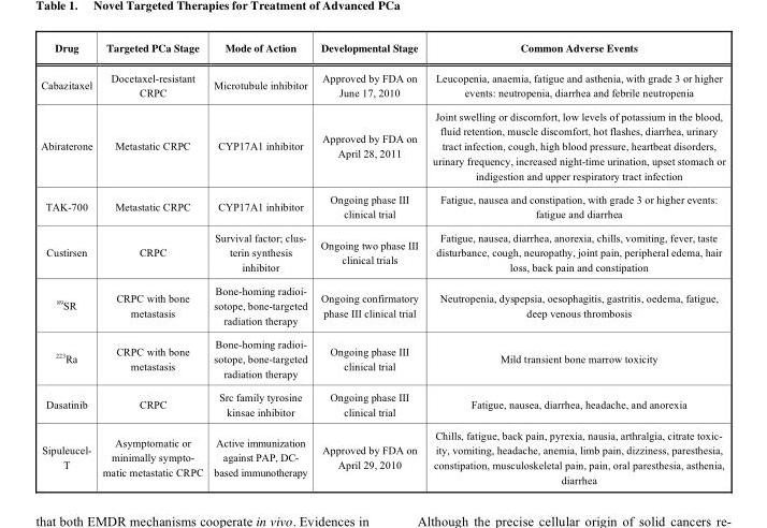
<table><thead><tr><td>Drug</td><td>Targeted PCa Stage</td><td>Mode of Action</td><td>Developmental Stage</td><td>Common Adverse Events</td></tr></thead><tbody><tr><td>Cabazitaxel</td><td>Docetaxel-resistant CRPC</td><td>Microtubule inhibitor</td><td>Approved by FDA on June 17, 2010</td><td>Leucopenia, anaemia, fatigue and asthenia, with grade 3 or higher events: neutropenia, diarrhea and febrile neutropenia</td></tr><tr><td>Abiraterone</td><td>Metastatic CRPC</td><td>CYP17A1 inhibitor</td><td>Approved by FDA on April 28, 2011</td><td>Joint swelling or discomfort, low levels of potassium in the blood, fluid retention, muscle discomfort, hot flashes, diarrhea, urinary tract infection, cough, high blood pressure, heartbeat disorders, urinary frequency, increased night-time urination, upset stomach or indigestion and upper respiratory tract infection</td></tr><tr><td>TAK-700</td><td>Metastatic CRPC</td><td>CYP17A1 inhibitor</td><td>Ongoing phase III clinical trial</td><td>Fatigue, nausea and constipation, with grade 3 or higher events: fatigue and diarrhea</td></tr><tr><td>Custirsen</td><td>CRPC</td><td>Survival factor; clus- terin synthesis inhibitor</td><td>Ongoing two phase III clinical trials</td><td>Fatigue, nausea, diarrhea, anorexia, chills, vomiting, fever, taste disturbance, cough, neuropathy, joint pain, peripheral edema, hair loss, back pain and constipation</td></tr><tr><td><sup>89</sup>SR</td><td>CRPC with bone metastasis</td><td>Bone-homing radioi- sotope, bone-targeted radiation therapy</td><td>Ongoing confirmatory phase III clinical trial</td><td>Neutropenia, dyspepsia, oesophagitis, gastritis, oedema, fatigue, deep venous thrombosis</td></tr><tr><td><sup>223</sup>Ra</td><td>CRPC with bone metastasis</td><td>Bone-homing radioi- sotope, bone-targeted radiation therapy</td><td>Ongoing phase III clinical trial</td><td>Mild transient bone marrow toxicity</td></tr><tr><td>Dasatinib</td><td>CRPC</td><td>Src family tyrosine kinsae inhibitor</td><td>Ongoing phase III clinical trial</td><td>Fatigue, nausea, diarrhea, headache, and anorexia</td></tr><tr><td>Sipuleucel- T</td><td>Asymptomatic or minimally sympto- matic metastatic CRPC</td><td>Active immunization against PAP, DC- based immunotherapy</td><td>Approved by FDA on April 29, 2010</td><td>Chills, fatigue, back pain, pyrexia, nausia, arthralgia, citrate toxic- ity, vomiting, headache, anemia, limb pain, dizziness, paresthesia, constipation, musculoskeletal pain, pain, oral paresthesia, asthenia, diarrhea</td></tr></tbody></table>